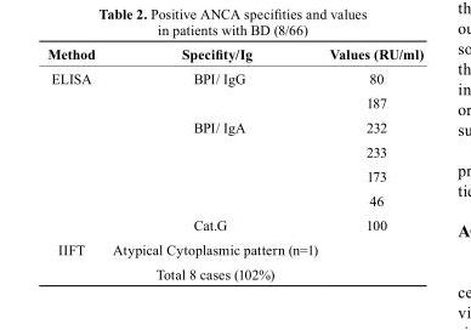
<table><thead><tr><td>Method</td><td>Specifity/Ig</td><td>Values (RU/ml)</td></tr></thead><tbody><tr><td rowspan="7">ELISA</td><td>BPI/ IgG</td><td>80</td></tr><tr><td></td><td>187</td></tr><tr><td>BPI/ IgA</td><td>232</td></tr><tr><td></td><td>233</td></tr><tr><td></td><td>173</td></tr><tr><td></td><td>46</td></tr><tr><td>Cat.G</td><td>100</td></tr><tr><td rowspan="2">IIFT</td><td>Atypical Cytoplasmic pattern (n=1)</td><td></td></tr><tr><td>Total 8 cases (102%)</td><td></td></tr></tbody></table>